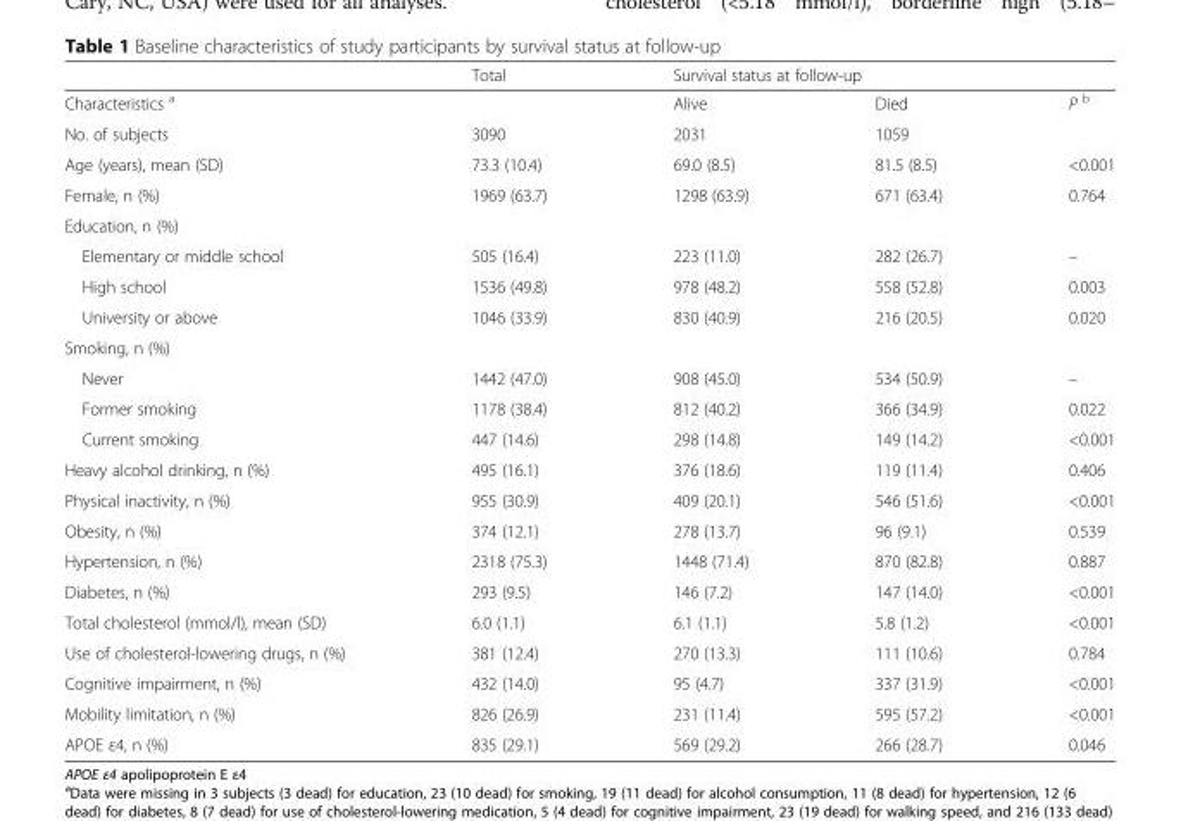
<table><thead><tr><td rowspan="2">Characteristics <sup>a</sup></td><td rowspan="2">Total</td><td colspan="3">Survival status at follow-up</td></tr><tr><td>Alive</td><td>Died</td><td>P <sup>b</sup></td></tr></thead><tbody><tr><td>No. of subjects</td><td>3090</td><td>2031</td><td>1059</td><td></td></tr><tr><td>Age (years), mean (SD)</td><td>73.3 (10.4)</td><td>69.0 (8.5)</td><td>81.5 (8.5)</td><td>&lt;0.001</td></tr><tr><td>Female, n (%)</td><td>1969 (63.7)</td><td>1298 (63.9)</td><td>671 (63.4)</td><td>0.764</td></tr><tr><td colspan="5">Education, n (%)</td></tr><tr><td>Elementary or middle school</td><td>505 (16.4)</td><td>223 (11.0)</td><td>282 (26.7)</td><td>–</td></tr><tr><td>High school</td><td>1536 (49.8)</td><td>978 (48.2)</td><td>558 (52.8)</td><td>0.003</td></tr><tr><td>University or above</td><td>1046 (33.9)</td><td>830 (40.9)</td><td>216 (20.5)</td><td>0.020</td></tr><tr><td colspan="5">Smoking, n (%)</td></tr><tr><td>Never</td><td>1442 (47.0)</td><td>908 (45.0)</td><td>534 (50.9)</td><td>–</td></tr><tr><td>Former smoking</td><td>1178 (38.4)</td><td>812 (40.2)</td><td>366 (34.9)</td><td>0.022</td></tr><tr><td>Current smoking</td><td>447 (14.6)</td><td>298 (14.8)</td><td>149 (14.2)</td><td>&lt;0.001</td></tr><tr><td>Heavy alcohol drinking, n (%)</td><td>495 (16.1)</td><td>376 (18.6)</td><td>119 (11.4)</td><td>0.406</td></tr><tr><td>Physical inactivity, n (%)</td><td>955 (30.9)</td><td>409 (20.1)</td><td>546 (51.6)</td><td>&lt;0.001</td></tr><tr><td>Obesity, n (%)</td><td>374 (12.1)</td><td>278 (13.7)</td><td>96 (9.1)</td><td>0.539</td></tr><tr><td>Hypertension, n (%)</td><td>2318 (75.3)</td><td>1448 (71.4)</td><td>870 (82.8)</td><td>0.887</td></tr><tr><td>Diabetes, n (%)</td><td>293 (9.5)</td><td>146 (7.2)</td><td>147 (14.0)</td><td>&lt;0.001</td></tr><tr><td>Total cholesterol (mmol/l), mean (SD)</td><td>6.0 (1.1)</td><td>6.1 (1.1)</td><td>5.8 (1.2)</td><td>&lt;0.001</td></tr><tr><td>Use of cholesterol-lowering drugs, n (%)</td><td>381 (12.4)</td><td>270 (13.3)</td><td>111 (10.6)</td><td>0.784</td></tr><tr><td>Cognitive impairment, n (%)</td><td>432 (14.0)</td><td>95 (4.7)</td><td>337 (31.9)</td><td>&lt;0.001</td></tr><tr><td>Mobility limitation, n (%)</td><td>826 (26.9)</td><td>231 (11.4)</td><td>595 (57.2)</td><td>&lt;0.001</td></tr><tr><td>APOE ε4, n (%)</td><td>835 (29.1)</td><td>569 (29.2)</td><td>266 (28.7)</td><td>0.046</td></tr></tbody></table>